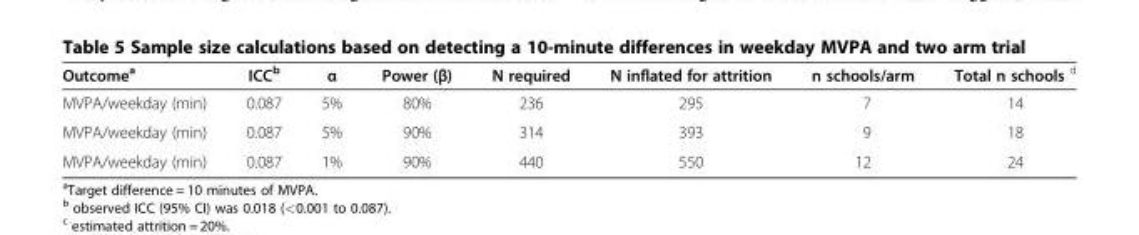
<table><thead><tr><td>Outcome<sup>a</sup></td><td>ICC<sup>b</sup></td><td>α</td><td>Power (β)</td><td>N required</td><td>N inflated for attrition</td><td>n schools/arm</td><td>Total n schools <sup>d</sup></td></tr></thead><tbody><tr><td>MVPA/weekday (min)</td><td>0.087</td><td>5%</td><td>80%</td><td>236</td><td>295</td><td>7</td><td>14</td></tr><tr><td>MVPA/weekday (min)</td><td>0.087</td><td>5%</td><td>90%</td><td>314</td><td>393</td><td>9</td><td>18</td></tr><tr><td>MVPA/weekday (min)</td><td>0.087</td><td>1%</td><td>90%</td><td>440</td><td>550</td><td>12</td><td>24</td></tr></tbody></table>